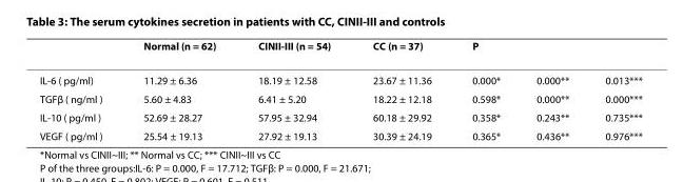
<table><thead><tr><td rowspan="2">IL-6 ( pg/ml)</td><td rowspan="2">Normal (n = 62) 11.29 ± 6.36</td><td rowspan="2">CINII-III (n = 54) 18.19 ± 12.58</td><td rowspan="2">CC (n = 37) 23.67 ± 11.36</td><td colspan="3">P</td></tr><tr><td>0.000*</td><td>0.000**</td><td>0.013***</td></tr></thead><tbody><tr><td>TGFβ ( ng/ml )</td><td>5.60 ± 4.83</td><td>6.41 ± 5.20</td><td>18.22 ± 12.18</td><td>0.598*</td><td>0.000**</td><td>0.000***</td></tr><tr><td>IL-10 ( pg/ml )</td><td>52.69 ± 28.27</td><td>57.95 ± 32.94</td><td>60.18 ± 29.92</td><td>0.358*</td><td>0.243**</td><td>0.735***</td></tr><tr><td>VEGF ( pg/ml )</td><td>25.54 ± 19.13</td><td>27.92 ± 19.13</td><td>30.39 ± 24.19</td><td>0.365*</td><td>0.436**</td><td>0.976***</td></tr></tbody></table>